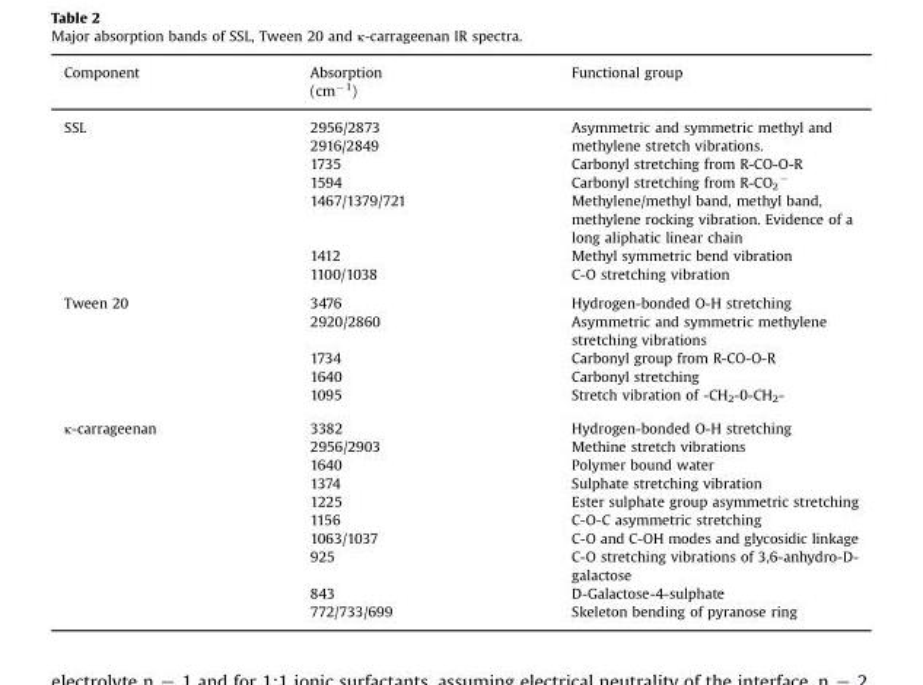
<table><thead><tr><td>Component</td><td>Absorption (cm<sup>−1</sup>)</td><td>Functional group</td></tr></thead><tbody><tr><td rowspan="7">SSL</td><td>2956/2873</td><td rowspan="2">Asymmetric and symmetric methyl and methylene stretch vibrations.</td></tr><tr><td>2916/2849</td></tr><tr><td>1735</td><td>Carbonyl stretching from R-CO-O-R</td></tr><tr><td>1594</td><td>Carbonyl stretching from R-CO<sub>2</sub> <sup>−</sup></td></tr><tr><td>1467/1379/721</td><td>Methylene/methyl band, methyl band, methylene rocking vibration. Evidence of a long aliphatic linear chain</td></tr><tr><td>1412</td><td>Methyl symmetric bend vibration</td></tr><tr><td>1100/1038</td><td>C-O stretching vibration</td></tr><tr><td rowspan="5">Tween 20</td><td>3476</td><td>Hydrogen-bonded O-H stretching</td></tr><tr><td>2920/2860</td><td>Asymmetric and symmetric methylene stretching vibrations</td></tr><tr><td>1734</td><td>Carbonyl group from R-CO-O-R</td></tr><tr><td>1640</td><td>Carbonyl stretching</td></tr><tr><td>1095</td><td>Stretch vibration of -CH<sub>2</sub>-0-CH<sub>2</sub>-</td></tr><tr><td rowspan="10">κ-carrageenan</td><td>3382</td><td>Hydrogen-bonded O-H stretching</td></tr><tr><td>2956/2903</td><td>Methine stretch vibrations</td></tr><tr><td>1640</td><td>Polymer bound water</td></tr><tr><td>1374</td><td>Sulphate stretching vibration</td></tr><tr><td>1225</td><td>Ester sulphate group asymmetric stretching</td></tr><tr><td>1156</td><td>C-O-C asymmetric stretching</td></tr><tr><td>1063/1037</td><td>C-O and C-OH modes and glycosidic linkage</td></tr><tr><td>925</td><td>C-O stretching vibrations of 3,6-anhydro-D- galactose</td></tr><tr><td>843</td><td>D-Galactose-4-sulphate</td></tr><tr><td>772/733/699</td><td>Skeleton bending of pyranose ring</td></tr></tbody></table>